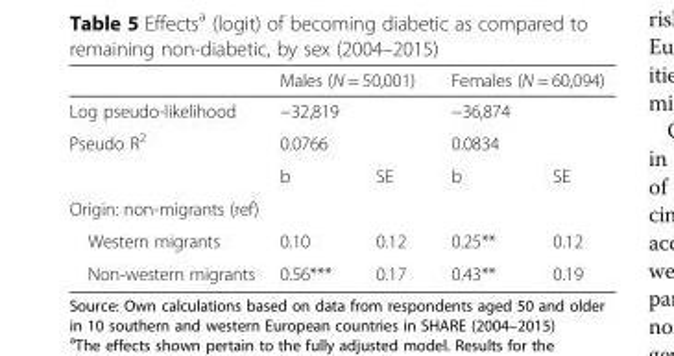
<table><thead><tr><td rowspan="4">Log pseudo-likelihood Pseudo R<sup>2</sup></td><td rowspan="3" colspan="2">Males (N = 50,001) −32,819 0.0766</td><td rowspan="3" colspan="2">Females (N = 60,094) −36,874 0.0834</td></tr><tr></tr><tr></tr><tr><td>b</td><td>SE</td><td>b</td><td>SE</td></tr></thead><tbody><tr><td colspan="5">Origin: non-migrants (ref)</td></tr><tr><td>Western migrants</td><td>0.10</td><td>0.12</td><td>0.25**</td><td>0.12</td></tr><tr><td>Non-western migrants</td><td>0.56***</td><td>0.17</td><td>0.43**</td><td>0.19</td></tr></tbody></table>